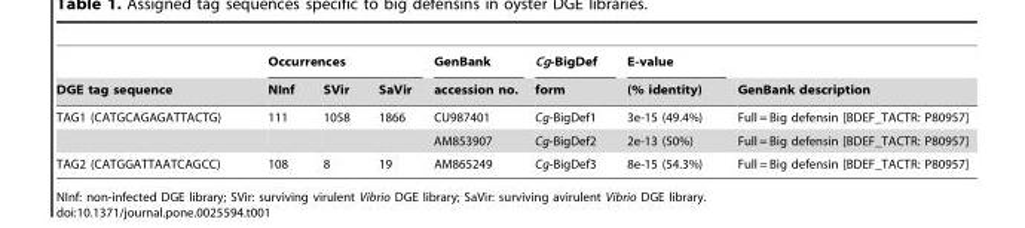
<table><thead><tr><td rowspan="2">DGE tag sequence</td><td colspan="3">Occurrences</td><td rowspan="2">GenBank accession no.</td><td rowspan="2">Cg-BigDef form</td><td rowspan="2">E-value (% identity)</td><td rowspan="2">GenBank description</td></tr><tr><td>NInf</td><td>SVir</td><td>SaVir</td></tr></thead><tbody><tr><td rowspan="2">TAG1 (CATGCAGAGATTACTG)</td><td>111</td><td>1058</td><td>1866</td><td>CU987401</td><td>Cg-BigDef1</td><td>3e-15 (49.4%)</td><td>Full = Big defensin [BDEF_TACTR: P80957]</td></tr><tr><td></td><td></td><td></td><td>AM853907</td><td>Cg-BigDef2</td><td>2e-13 (50%)</td><td>Full = Big defensin [BDEF_TACTR: P80957]</td></tr><tr><td>TAG2 (CATGGATTAATCAGCC)</td><td>108</td><td>8</td><td>19</td><td>AM865249</td><td>Cg-BigDef3</td><td>8e-15 (54.3%)</td><td>Full = Big defensin [BDEF_TACTR: P80957]</td></tr></tbody></table>